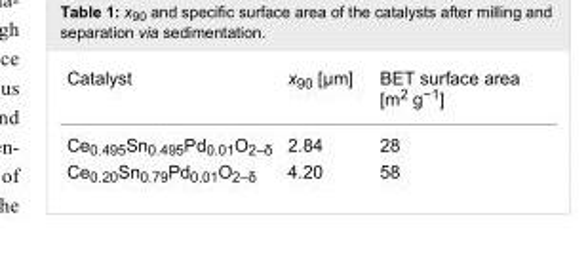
<table><tbody><tr><td>Catalyst</td><td>x<sub>90</sub> [µm]</td><td>BET surface area [m<sup>2</sup> g<sup>−1</sup>]</td></tr><tr><td>Ce<sub>0.495</sub>Sn<sub>0.495</sub>Pd<sub>0.01</sub>O<sub>2–δ</sub></td><td>2.84</td><td>28</td></tr><tr><td>Ce<sub>0.20</sub>Sn<sub>0.79</sub>Pd<sub>0.01</sub>O<sub>2–δ</sub></td><td>4.20</td><td>58</td></tr></tbody></table>